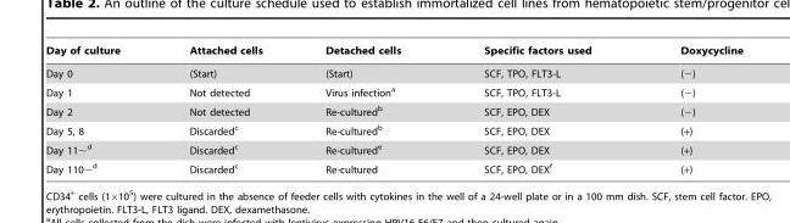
<table><thead><tr><td>Day of culture</td><td>Attached cells</td><td>Detached cells</td><td>Specific factors used</td><td>Doxycycline</td></tr></thead><tbody><tr><td>Day 0</td><td>(Start)</td><td>(Start)</td><td>SCF, TPO, FLT3-L</td><td>(−)</td></tr><tr><td>Day 1</td><td>Not detected</td><td>Virus infection<sup>a</sup></td><td>SCF, TPO, FLT3-L</td><td>(−)</td></tr><tr><td>Day 2</td><td>Not detected</td><td>Re-cultured<sup>b</sup></td><td>SCF, EPO, DEX</td><td>(−)</td></tr><tr><td>Day 5, 8</td><td>Discarded<sup>c</sup></td><td>Re-cultured<sup>b</sup></td><td>SCF, EPO, DEX</td><td>(+)</td></tr><tr><td>Day 11∼<sup>d</sup></td><td>Discarded<sup>c</sup></td><td>Re-cultured<sup>e</sup></td><td>SCF, EPO, DEX</td><td>(+)</td></tr><tr><td>Day 110∼<sup>d</sup></td><td>Discarded<sup>c</sup></td><td>Re-cultured</td><td>SCF, EPO, DEX<sup>f</sup></td><td>(+)</td></tr></tbody></table>